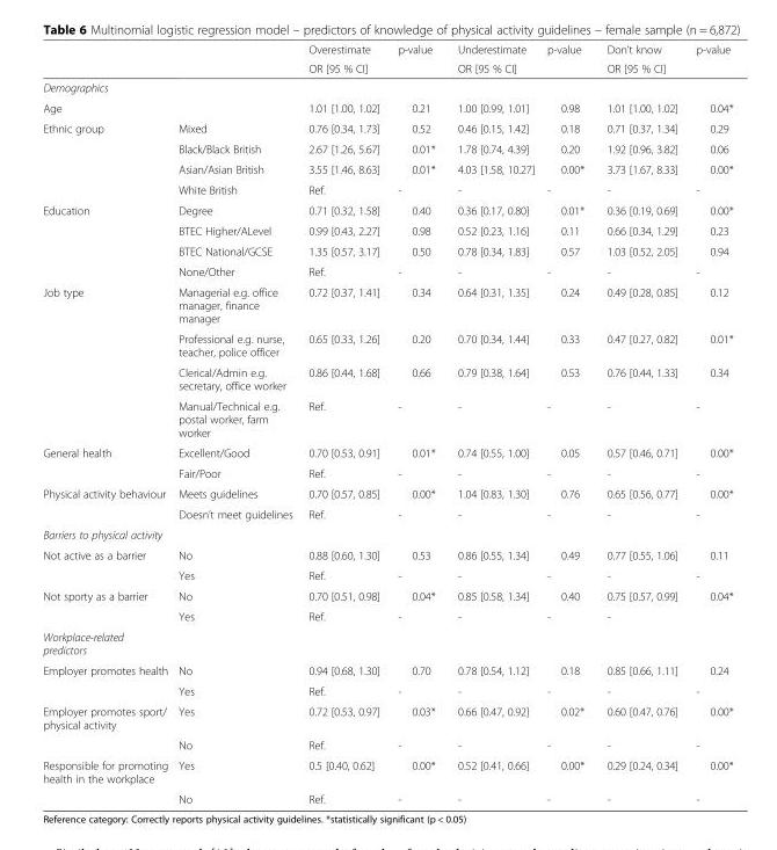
<table><thead><tr><td rowspan="2"></td><td rowspan="2"></td><td rowspan="2">Overestimate OR [95 % CI]</td><td rowspan="2">p-value</td><td rowspan="2">Underestimate OR [95 % CI]</td><td rowspan="2">p-value</td><td rowspan="2">Don’t know OR [95 % CI]</td><td rowspan="2">p-value</td></tr><tr></tr></thead><tbody><tr><td colspan="8">Demographics</td></tr><tr><td>Age</td><td></td><td>1.01 [1.00, 1.02]</td><td>0.21</td><td>1.00 [0.99, 1.01]</td><td>0.98</td><td>1.01 [1.00, 1.02]</td><td>0.04*</td></tr><tr><td rowspan="4">Ethnic group</td><td>Mixed</td><td>0.76 [0.34, 1.73]</td><td>0.52</td><td>0.46 [0.15, 1.42]</td><td>0.18</td><td>0.71 [0.37, 1.34]</td><td>0.29</td></tr><tr><td>Black/Black British</td><td>2.67 [1.26, 5.67]</td><td>0.01*</td><td>1.78 [0.74, 4.39]</td><td>0.20</td><td>1.92 [0.96, 3.82]</td><td>0.06</td></tr><tr><td>Asian/Asian British</td><td>3.55 [1.46, 8.63]</td><td>0.01*</td><td>4.03 [1.58, 10.27]</td><td>0.00*</td><td>3.73 [1.67, 8.33]</td><td>0.00*</td></tr><tr><td>White British</td><td>Ref.</td><td>-</td><td>-</td><td>-</td><td>-</td><td>-</td></tr><tr><td rowspan="4">Education</td><td>Degree</td><td>0.71 [0.32, 1.58]</td><td>0.40</td><td>0.36 [0.17, 0.80]</td><td>0.01*</td><td>0.36 [0.19, 0.69]</td><td>0.00*</td></tr><tr><td>BTEC Higher/ALevel</td><td>0.99 [0.43, 2.27]</td><td>0.98</td><td>0.52 [0.23, 1.16]</td><td>0.11</td><td>0.66 [0.34, 1.29]</td><td>0.23</td></tr><tr><td>BTEC National/GCSE</td><td>1.35 [0.57, 3.17]</td><td>0.50</td><td>0.78 [0.34, 1.83]</td><td>0.57</td><td>1.03 [0.52, 2.05]</td><td>0.94</td></tr><tr><td>None/Other</td><td>Ref.</td><td>-</td><td>-</td><td>-</td><td>-</td><td>-</td></tr><tr><td rowspan="4">Job type</td><td>Managerial e.g. office manager, finance manager</td><td>0.72 [0.37, 1.41]</td><td>0.34</td><td>0.64 [0.31, 1.35]</td><td>0.24</td><td>0.49 [0.28, 0.85]</td><td>0.12</td></tr><tr><td>Professional e.g. nurse, teacher, police officer</td><td>0.65 [0.33, 1.26]</td><td>0.20</td><td>0.70 [0.34, 1.44]</td><td>0.33</td><td>0.47 [0.27, 0.82]</td><td>0.01*</td></tr><tr><td>Clerical/Admin e.g. secretary, office worker</td><td>0.86 [0.44, 1.68]</td><td>0.66</td><td>0.79 [0.38, 1.64]</td><td>0.53</td><td>0.76 [0.44, 1.33]</td><td>0.34</td></tr><tr><td>Manual/Technical e.g. postal worker, farm worker</td><td>Ref.</td><td>-</td><td>-</td><td>-</td><td>-</td><td>-</td></tr><tr><td rowspan="2">General health</td><td>Excellent/Good</td><td>0.70 [0.53, 0.91]</td><td>0.01*</td><td>0.74 [0.55, 1.00]</td><td>0.05</td><td>0.57 [0.46, 0.71]</td><td>0.00*</td></tr><tr><td>Fair/Poor</td><td>Ref.</td><td>-</td><td>-</td><td>-</td><td>-</td><td>-</td></tr><tr><td rowspan="2">Physical activity behaviour</td><td>Meets guidelines</td><td>0.70 [0.57, 0.85]</td><td>0.00*</td><td>1.04 [0.83, 1.30]</td><td>0.76</td><td>0.65 [0.56, 0.77]</td><td>0.00*</td></tr><tr><td>Doesn’t meet guidelines</td><td>Ref.</td><td>-</td><td>-</td><td>-</td><td>-</td><td>-</td></tr><tr><td colspan="8">Barriers to physical activity</td></tr><tr><td rowspan="2">Not active as a barrier</td><td>No</td><td>0.88 [0.60, 1.30]</td><td>0.53</td><td>0.86 [0.55, 1.34]</td><td>0.49</td><td>0.77 [0.55, 1.06]</td><td>0.11</td></tr><tr><td>Yes</td><td>Ref.</td><td>-</td><td>-</td><td>-</td><td>-</td><td>-</td></tr><tr><td rowspan="2">Not sporty as a barrier</td><td>No</td><td>0.70 [0.51, 0.98]</td><td>0.04*</td><td>0.85 [0.58, 1.34]</td><td>0.40</td><td>0.75 [0.57, 0.99]</td><td>0.04*</td></tr><tr><td>Yes</td><td>Ref.</td><td>-</td><td>-</td><td>-</td><td>-</td><td></td></tr><tr><td colspan="8">Workplace-related predictors</td></tr><tr><td rowspan="2">Employer promotes health</td><td>No</td><td>0.94 [0.68, 1.30]</td><td>0.70</td><td>0.78 [0.54, 1.12]</td><td>0.18</td><td>0.85 [0.66, 1.11]</td><td>0.24</td></tr><tr><td>Yes</td><td>Ref.</td><td>-</td><td>-</td><td>-</td><td>-</td><td>-</td></tr><tr><td rowspan="2">Employer promotes sport/ physical activity</td><td>Yes</td><td>0.72 [0.53, 0.97]</td><td>0.03*</td><td>0.66 [0.47, 0.92]</td><td>0.02*</td><td>0.60 [0.47, 0.76]</td><td>0.00*</td></tr><tr><td>No</td><td>Ref.</td><td>-</td><td>-</td><td>-</td><td>-</td><td>-</td></tr><tr><td rowspan="2">Responsible for promoting health in the workplace</td><td>Yes</td><td>0.5 [0.40, 0.62]</td><td>0.00*</td><td>0.52 [0.41, 0.66]</td><td>0.00*</td><td>0.29 [0.24, 0.34]</td><td>0.00*</td></tr><tr><td>No</td><td>Ref.</td><td>-</td><td>-</td><td>-</td><td>-</td><td>-</td></tr></tbody></table>